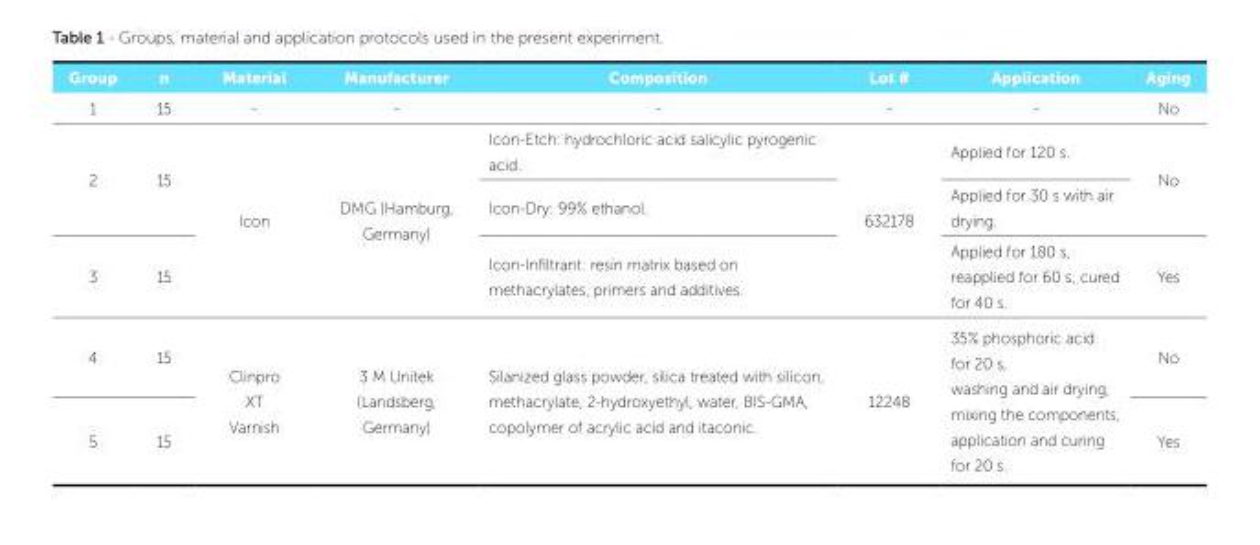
<table><thead><tr><td>Group</td><td>n</td><td>Material</td><td>Manufacturer</td><td>Composition</td><td>Lot #</td><td>Application</td><td>Aging</td></tr></thead><tbody><tr><td>1</td><td>15</td><td>-</td><td>-</td><td>-</td><td>-</td><td>-</td><td>No</td></tr><tr><td rowspan="2">2</td><td rowspan="2">15</td><td rowspan="3">Icon</td><td rowspan="3">DMG (Hamburg, Germany)</td><td>Icon-Etch: hydrochloric acid salicylic pyrogenic acid.</td><td rowspan="3">632178</td><td>Applied for 120 s.</td><td rowspan="2">No</td></tr><tr><td>Icon-Dry: 99% ethanol.</td><td>Applied for 30 s with air drying.</td></tr><tr><td>3</td><td>15</td><td>Icon-Infiltrant: resin matrix based on methacrylates, primers and additives.</td><td>Applied for 180 s, reapplied for 60 s, cured for 40 s.</td><td>Yes</td></tr><tr><td>4</td><td>15</td><td rowspan="2">Clinpro XT Varnish</td><td rowspan="2">3 M Unitek (Landsberg, Germany)</td><td rowspan="2">Silanized glass powder, silica treated with silicon, methacrylate, 2-hydroxyethyl, water, BIS-GMA, copolymer of acrylic acid and itaconic.</td><td rowspan="2">12248</td><td rowspan="2">35% phosphoric acid for 20 s, washing and air drying, mixing the components, application and curing for 20 s.</td><td>No</td></tr><tr><td>5</td><td>15</td><td>Yes</td></tr></tbody></table>